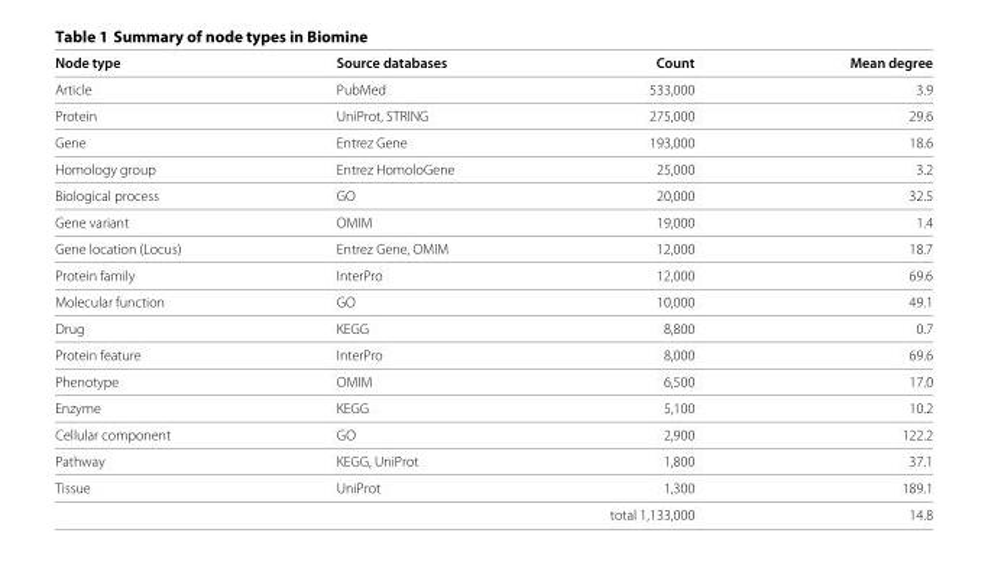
<table><thead><tr><td>Node type</td><td>Source databases</td><td>Count</td><td>Mean degree</td></tr></thead><tbody><tr><td>Article</td><td>PubMed</td><td>533,000</td><td>3.9</td></tr><tr><td>Protein</td><td>UniProt, STRING</td><td>275,000</td><td>29.6</td></tr><tr><td>Gene</td><td>Entrez Gene</td><td>193,000</td><td>18.6</td></tr><tr><td>Homology group</td><td>Entrez HomoloGene</td><td>25,000</td><td>3.2</td></tr><tr><td>Biological process</td><td>GO</td><td>20,000</td><td>32.5</td></tr><tr><td>Gene variant</td><td>OMIM</td><td>19,000</td><td>1.4</td></tr><tr><td>Gene location (Locus)</td><td>Entrez Gene, OMIM</td><td>12,000</td><td>18.7</td></tr><tr><td>Protein family</td><td>InterPro</td><td>12,000</td><td>69.6</td></tr><tr><td>Molecular function</td><td>GO</td><td>10,000</td><td>49.1</td></tr><tr><td>Drug</td><td>KEGG</td><td>8,800</td><td>0.7</td></tr><tr><td>Protein feature</td><td>InterPro</td><td>8,000</td><td>69.6</td></tr><tr><td>Phenotype</td><td>OMIM</td><td>6,500</td><td>17.0</td></tr><tr><td>Enzyme</td><td>KEGG</td><td>5,100</td><td>10.2</td></tr><tr><td>Cellular component</td><td>GO</td><td>2,900</td><td>122.2</td></tr><tr><td>Pathway</td><td>KEGG, UniProt</td><td>1,800</td><td>37.1</td></tr><tr><td rowspan="2">Tissue</td><td>UniProt</td><td>1,300</td><td>189.1</td></tr><tr><td></td><td>total 1,133,000</td><td>14.8</td></tr></tbody></table>